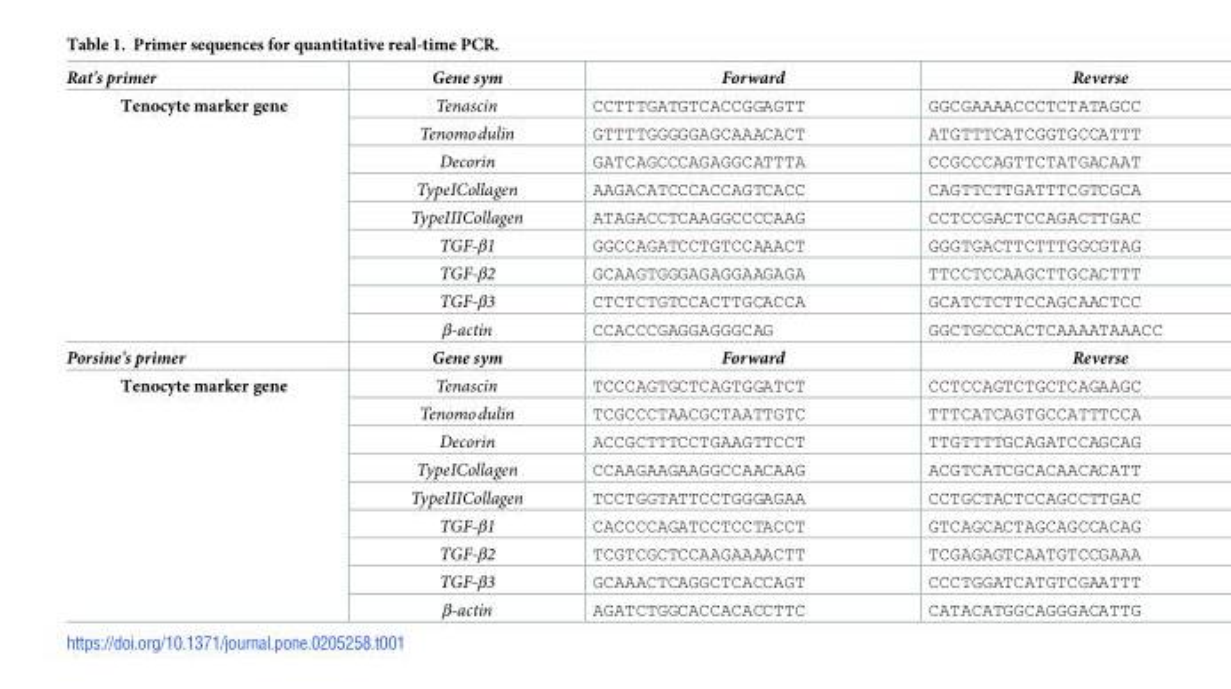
<table><tbody><tr><td>Rat&#x27;s primer</td><td>Gene sym</td><td>Forward</td><td>Reverse</td></tr><tr><td rowspan="9">Tenocyte marker gene</td><td>Tenascin</td><td>CCTTTGATGTCACCGGAGTT</td><td>GGCGAAAACCCTCTATAGCC</td></tr><tr><td>Tenomodulin</td><td>GTTTTGGGGGAGCAAACACT</td><td>ATGTTTCATCGGTGCCATTT</td></tr><tr><td>Decorin</td><td>GATCAGCCCAGAGGCATTTA</td><td>CCGCCCAGTTCTATGACAAT</td></tr><tr><td>TypeICollagen</td><td>AAGACATCCCACCAGTCACC</td><td>CAGTTCTTGATTTCGTCGCA</td></tr><tr><td>TypeIIICollagen</td><td>ATAGACCTCAAGGCCCCAAG</td><td>CCTCCGACTCCAGACTTGAC</td></tr><tr><td>TGF-β1</td><td>GGCCAGATCCTGTCCAAACT</td><td>GGGTGACTTCTTTGGCGTAG</td></tr><tr><td>TGF-β2</td><td>GCAAGTGGGAGAGGAAGAGA</td><td>TTCCTCCAAGCTTGCACTTT</td></tr><tr><td>TGF-β3</td><td>CTCTCTGTCCACTTGCACCA</td><td>GCATCTCTTCCAGCAACTCC</td></tr><tr><td>β-actin</td><td>CCACCCGAGGAGGGCAG</td><td>GGCTGCCCACTCAAAATAAACC</td></tr><tr><td>Porsine&#x27;s primer</td><td>Gene sym</td><td>Forward</td><td>Reverse</td></tr><tr><td rowspan="9">Tenocyte marker gene</td><td>Tenascin</td><td>TCCCAGTGCTCAGTGGATCT</td><td>CCTCCAGTCTGCTCAGAAGC</td></tr><tr><td>Tenomodulin</td><td>TCGCCCTAACGCTAATTGTC</td><td>TTTCATCAGTGCCATTTCCA</td></tr><tr><td>Decorin</td><td>ACCGCTTTCCTGAAGTTCCT</td><td>TTGTTTTGCAGATCCAGCAG</td></tr><tr><td>TypeICollagen</td><td>CCAAGAAGAAGGCCAACAAG</td><td>ACGTCATCGCACAACACATT</td></tr><tr><td>TypeIIICollagen</td><td>TCCTGGTATTCCTGGGAGAA</td><td>CCTGCTACTCCAGCCTTGAC</td></tr><tr><td>TGF-β1</td><td>CACCCCAGATCCTCCTACCT</td><td>GTCAGCACTAGCAGCCACAG</td></tr><tr><td>TGF-β2</td><td>TCGTCGCTCCAAGAAAACTT</td><td>TCGAGAGTCAATGTCCGAAA</td></tr><tr><td>TGF-β3</td><td>GCAAACTCAGGCTCACCAGT</td><td>CCCTGGATCATGTCGAATTT</td></tr><tr><td>β-actin</td><td>AGATCTGGCACCACACCTTC</td><td>CATACATGGCAGGGACATTG</td></tr></tbody></table>